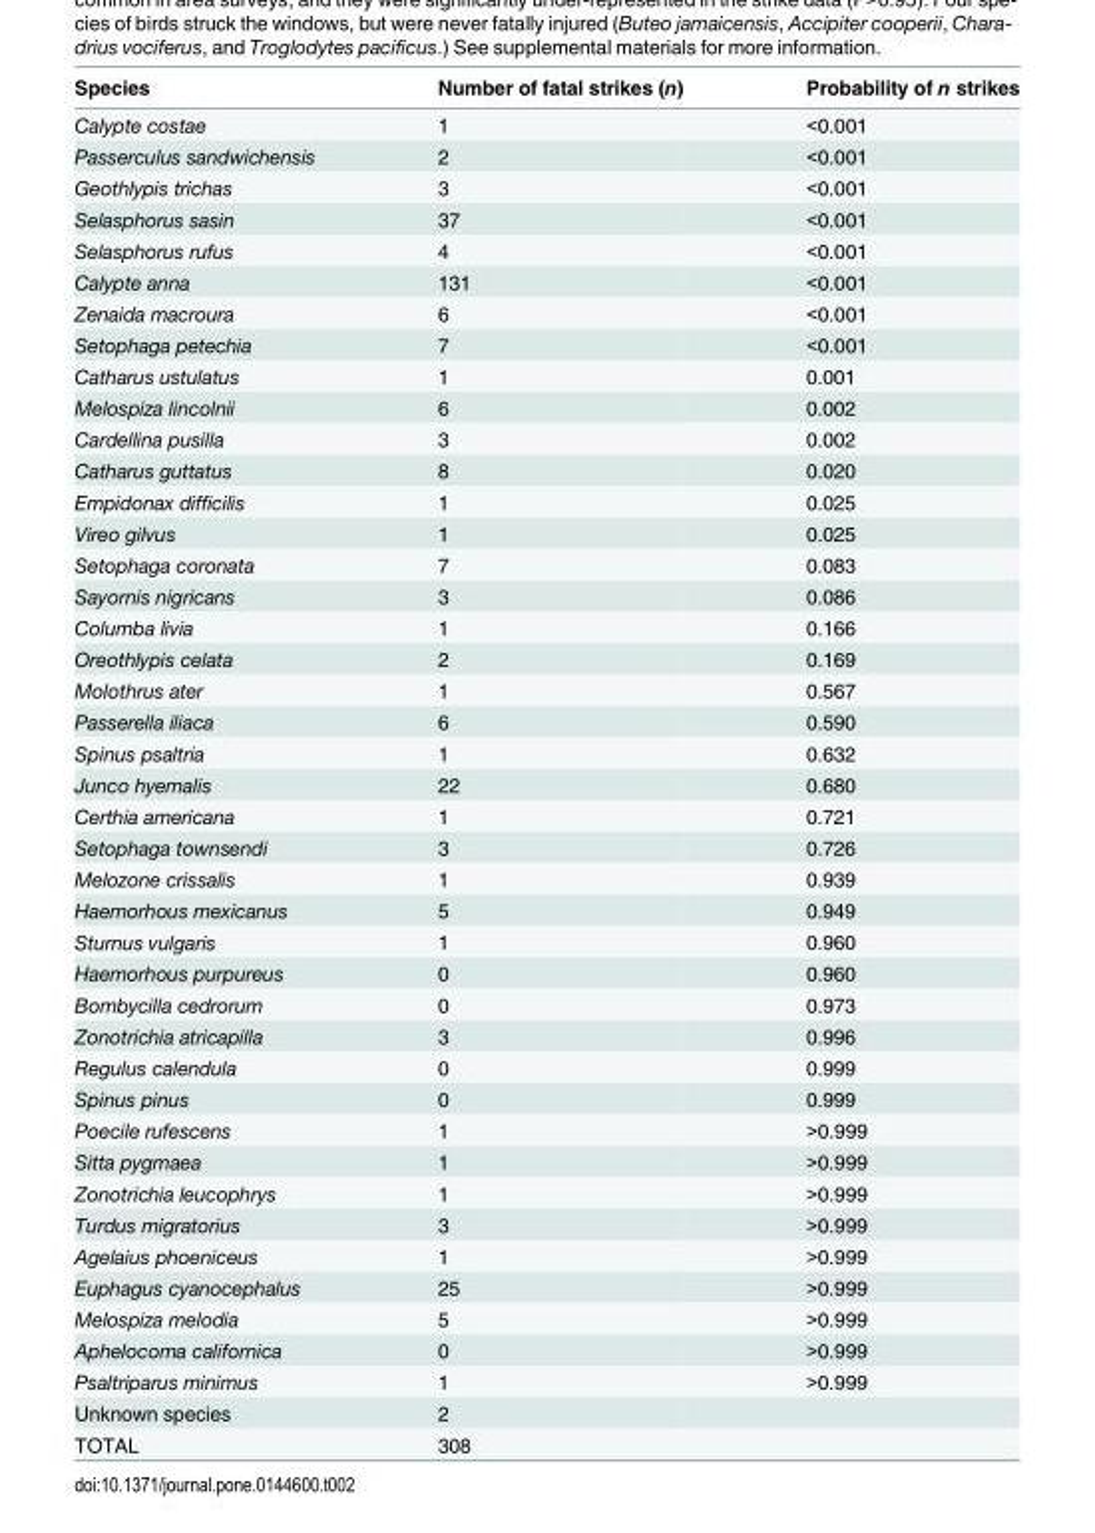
<table><thead><tr><td>Species</td><td>Number of fatal strikes (n)</td><td>Probability of n strikes</td></tr></thead><tbody><tr><td>Calypte costae</td><td>1</td><td>&lt;0.001</td></tr><tr><td>Passerculus sandwichensis</td><td>2</td><td>&lt;0.001</td></tr><tr><td>Geothlypis trichas</td><td>3</td><td>&lt;0.001</td></tr><tr><td>Selasphorus sasin</td><td>37</td><td>&lt;0.001</td></tr><tr><td>Selasphorus rufus</td><td>4</td><td>&lt;0.001</td></tr><tr><td>Calypte anna</td><td>131</td><td>&lt;0.001</td></tr><tr><td>Zenaida macroura</td><td>6</td><td>&lt;0.001</td></tr><tr><td>Setophaga petechia</td><td>7</td><td>&lt;0.001</td></tr><tr><td>Catharus ustulatus</td><td>1</td><td>0.001</td></tr><tr><td>Melospiza lincolnii</td><td>6</td><td>0.002</td></tr><tr><td>Cardellina pusilla</td><td>3</td><td>0.002</td></tr><tr><td>Catharus guttatus</td><td>8</td><td>0.020</td></tr><tr><td>Empidonax difficilis</td><td>1</td><td>0.025</td></tr><tr><td>Vireo gilvus</td><td>1</td><td>0.025</td></tr><tr><td>Setophaga coronata</td><td>7</td><td>0.083</td></tr><tr><td>Sayornis nigricans</td><td>3</td><td>0.086</td></tr><tr><td>Columba livia</td><td>1</td><td>0.166</td></tr><tr><td>Oreothlypis celata</td><td>2</td><td>0.169</td></tr><tr><td>Molothrus ater</td><td>1</td><td>0.567</td></tr><tr><td>Passerella iliaca</td><td>6</td><td>0.590</td></tr><tr><td>Spinus psaltria</td><td>1</td><td>0.632</td></tr><tr><td>Junco hyemalis</td><td>22</td><td>0.680</td></tr><tr><td>Certhia americana</td><td>1</td><td>0.721</td></tr><tr><td>Setophaga townsendi</td><td>3</td><td>0.726</td></tr><tr><td>Melozone crissalis</td><td>1</td><td>0.939</td></tr><tr><td>Haemorhous mexicanus</td><td>5</td><td>0.949</td></tr><tr><td>Sturnus vulgaris</td><td>1</td><td>0.960</td></tr><tr><td>Haemorhous purpureus</td><td>0</td><td>0.960</td></tr><tr><td>Bombycilla cedrorum</td><td>0</td><td>0.973</td></tr><tr><td>Zonotrichia atricapilla</td><td>3</td><td>0.996</td></tr><tr><td>Regulus calendula</td><td>0</td><td>0.999</td></tr><tr><td>Spinus pinus</td><td>0</td><td>0.999</td></tr><tr><td>Poecile rufescens</td><td>1</td><td>&gt;0.999</td></tr><tr><td>Sitta pygmaea</td><td>1</td><td>&gt;0.999</td></tr><tr><td>Zonotrichia leucophrys</td><td>1</td><td>&gt;0.999</td></tr><tr><td>Turdus migratorius</td><td>3</td><td>&gt;0.999</td></tr><tr><td>Agelaius phoeniceus</td><td>1</td><td>&gt;0.999</td></tr><tr><td>Euphagus cyanocephalus</td><td>25</td><td>&gt;0.999</td></tr><tr><td>Melospiza melodia</td><td>5</td><td>&gt;0.999</td></tr><tr><td>Aphelocoma californica</td><td>0</td><td>&gt;0.999</td></tr><tr><td>Psaltriparus minimus</td><td>1</td><td>&gt;0.999</td></tr><tr><td>Unknown species</td><td>2</td><td></td></tr><tr><td>TOTAL</td><td>308</td><td></td></tr></tbody></table>